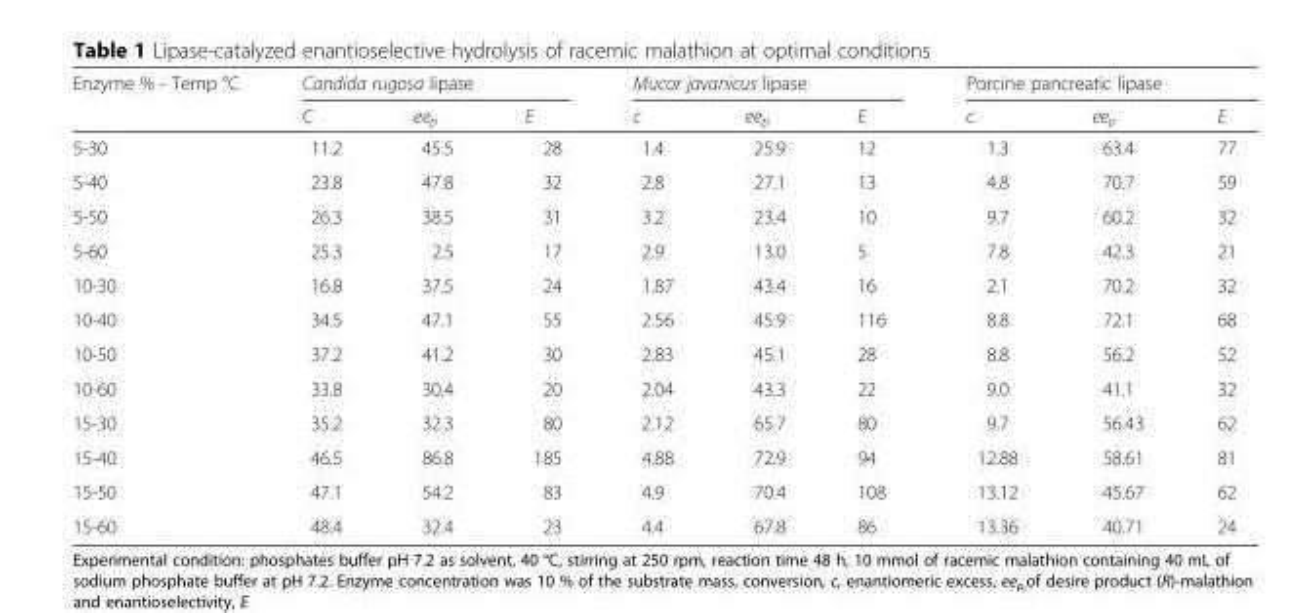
<table><thead><tr><td rowspan="2">Enzyme % - Temp °C</td><td colspan="3">Candida rugosa lipase</td><td colspan="3">Mucor javanicus lipase</td><td colspan="3">Porcine pancreatic lipase</td></tr><tr><td>C</td><td>ee<sub>p</sub></td><td>E</td><td>c</td><td>ee<sub>p</sub></td><td>E</td><td>c</td><td>ee<sub>p</sub></td><td>E</td></tr></thead><tbody><tr><td>5-30</td><td>11.2</td><td>45.5</td><td>28</td><td>1.4</td><td>25.9</td><td>12</td><td>1.3</td><td>63.4</td><td>77</td></tr><tr><td>5-40</td><td>23.8</td><td>47.8</td><td>32</td><td>2.8</td><td>27.1</td><td>13</td><td>4.8</td><td>70.7</td><td>59</td></tr><tr><td>5-50</td><td>26.3</td><td>38.5</td><td>31</td><td>3.2</td><td>23.4</td><td>10</td><td>9.7</td><td>60.2</td><td>32</td></tr><tr><td>5-60</td><td>25.3</td><td>2.5</td><td>17</td><td>2.9</td><td>13.0</td><td>5</td><td>7.8</td><td>42.3</td><td>21</td></tr><tr><td>10-30</td><td>16.8</td><td>37.5</td><td>24</td><td>1.87</td><td>43.4</td><td>16</td><td>2.1</td><td>70.2</td><td>32</td></tr><tr><td>10-40</td><td>34.5</td><td>47.1</td><td>55</td><td>2.56</td><td>45.9</td><td>116</td><td>8.8</td><td>72.1</td><td>68</td></tr><tr><td>10-50</td><td>37.2</td><td>41.2</td><td>30</td><td>2.83</td><td>45.1</td><td>28</td><td>8.8</td><td>56.2</td><td>52</td></tr><tr><td>10-60</td><td>33.8</td><td>30.4</td><td>20</td><td>2.04</td><td>43.3</td><td>22</td><td>9.0</td><td>41.1</td><td>32</td></tr><tr><td>15-30</td><td>35.2</td><td>32.3</td><td>80</td><td>2.12</td><td>65.7</td><td>80</td><td>9.7</td><td>56.43</td><td>62</td></tr><tr><td>15-40</td><td>46.5</td><td>86.8</td><td>185</td><td>4.88</td><td>72.9</td><td>94</td><td>12.88</td><td>58.61</td><td>81</td></tr><tr><td>15-50</td><td>47.1</td><td>54.2</td><td>83</td><td>4.9</td><td>70.4</td><td>108</td><td>13.12</td><td>45.67</td><td>62</td></tr><tr><td>15-60</td><td>48.4</td><td>32.4</td><td>23</td><td>4.4</td><td>67.8</td><td>86</td><td>13.36</td><td>40.71</td><td>24</td></tr></tbody></table>